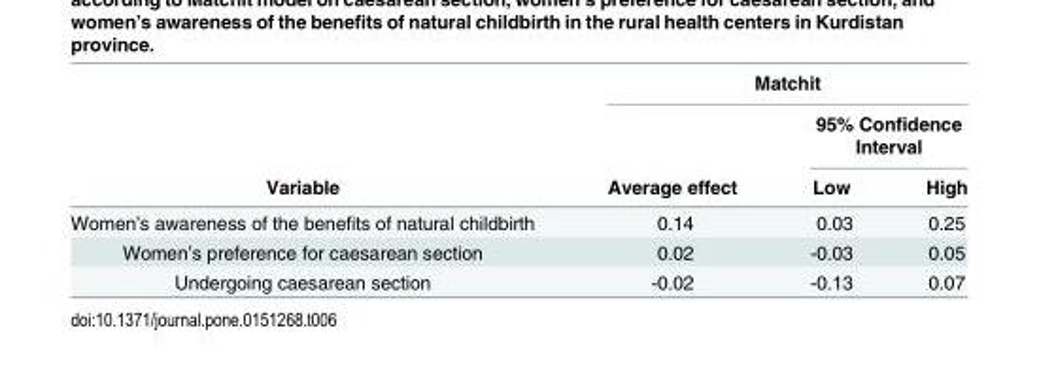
<table><thead><tr><td rowspan="3">Variable</td><td colspan="3">Matchit</td></tr><tr><td rowspan="2">Average effect</td><td colspan="2">95% Confidence Interval</td></tr><tr><td>Low</td><td>High</td></tr></thead><tbody><tr><td>Women’s awareness of the benefits of natural childbirth</td><td>0.14</td><td>0.03</td><td>0.25</td></tr><tr><td>Women’s preference for caesarean section</td><td>0.02</td><td>-0.03</td><td>0.05</td></tr><tr><td>Undergoing caesarean section</td><td>-0.02</td><td>-0.13</td><td>0.07</td></tr></tbody></table>